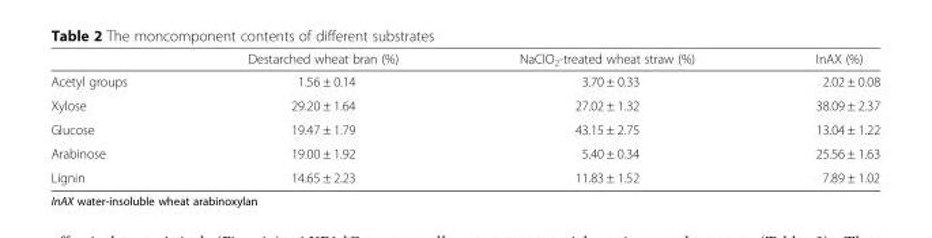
<table><thead><tr><td></td><td>Destarched wheat bran (%)</td><td>NaClO<sub>2</sub>-treated wheat straw (%)</td><td>InAX (%)</td></tr></thead><tbody><tr><td>Acetyl groups</td><td>1.56 ± 0.14</td><td>3.70 ± 0.33</td><td>2.02 ± 0.08</td></tr><tr><td>Xylose</td><td>29.20 ± 1.64</td><td>27.02 ± 1.32</td><td>38.09 ± 2.37</td></tr><tr><td>Glucose</td><td>19.47 ± 1.79</td><td>43.15 ± 2.75</td><td>13.04 ± 1.22</td></tr><tr><td>Arabinose</td><td>19.00 ± 1.92</td><td>5.40 ± 0.34</td><td>25.56 ± 1.63</td></tr><tr><td>Lignin</td><td>14.65 ± 2.23</td><td>11.83 ± 1.52</td><td>7.89 ± 1.02</td></tr></tbody></table>